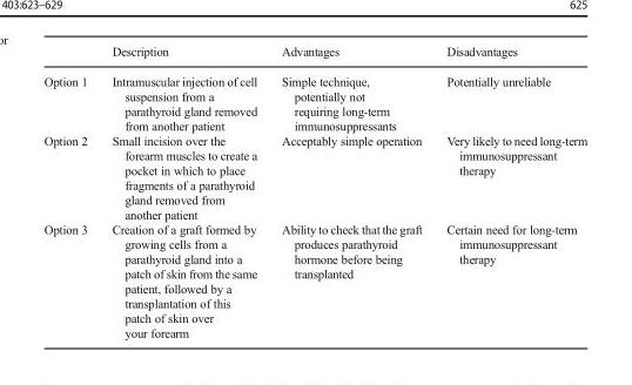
<table><thead><tr><td></td><td>Description</td><td>Advantages</td><td>Disadvantages</td></tr></thead><tbody><tr><td>Option 1</td><td>Intramuscular injection of cell suspension from a parathyroid gland removed from another patient</td><td>Simple technique, potentially not requiring long-term immunosuppressants</td><td>Potentially unreliable</td></tr><tr><td>Option 2</td><td>Small incision over the forearm muscles to create a pocket in which to place fragments of a parathyroid gland removed from another patient</td><td>Acceptably simple operation</td><td>Very likely to need long-term immunosuppressant therapy</td></tr><tr><td>Option 3</td><td>Creation of a graft formed by growing cells from a parathyroid gland into a patch of skin from the same patient, followed by a transplantation of this patch of skin over your forearm</td><td>Ability to check that the graft produces parathyroid hormone before being transplanted</td><td>Certain need for long-term immunosuppressant therapy</td></tr></tbody></table>